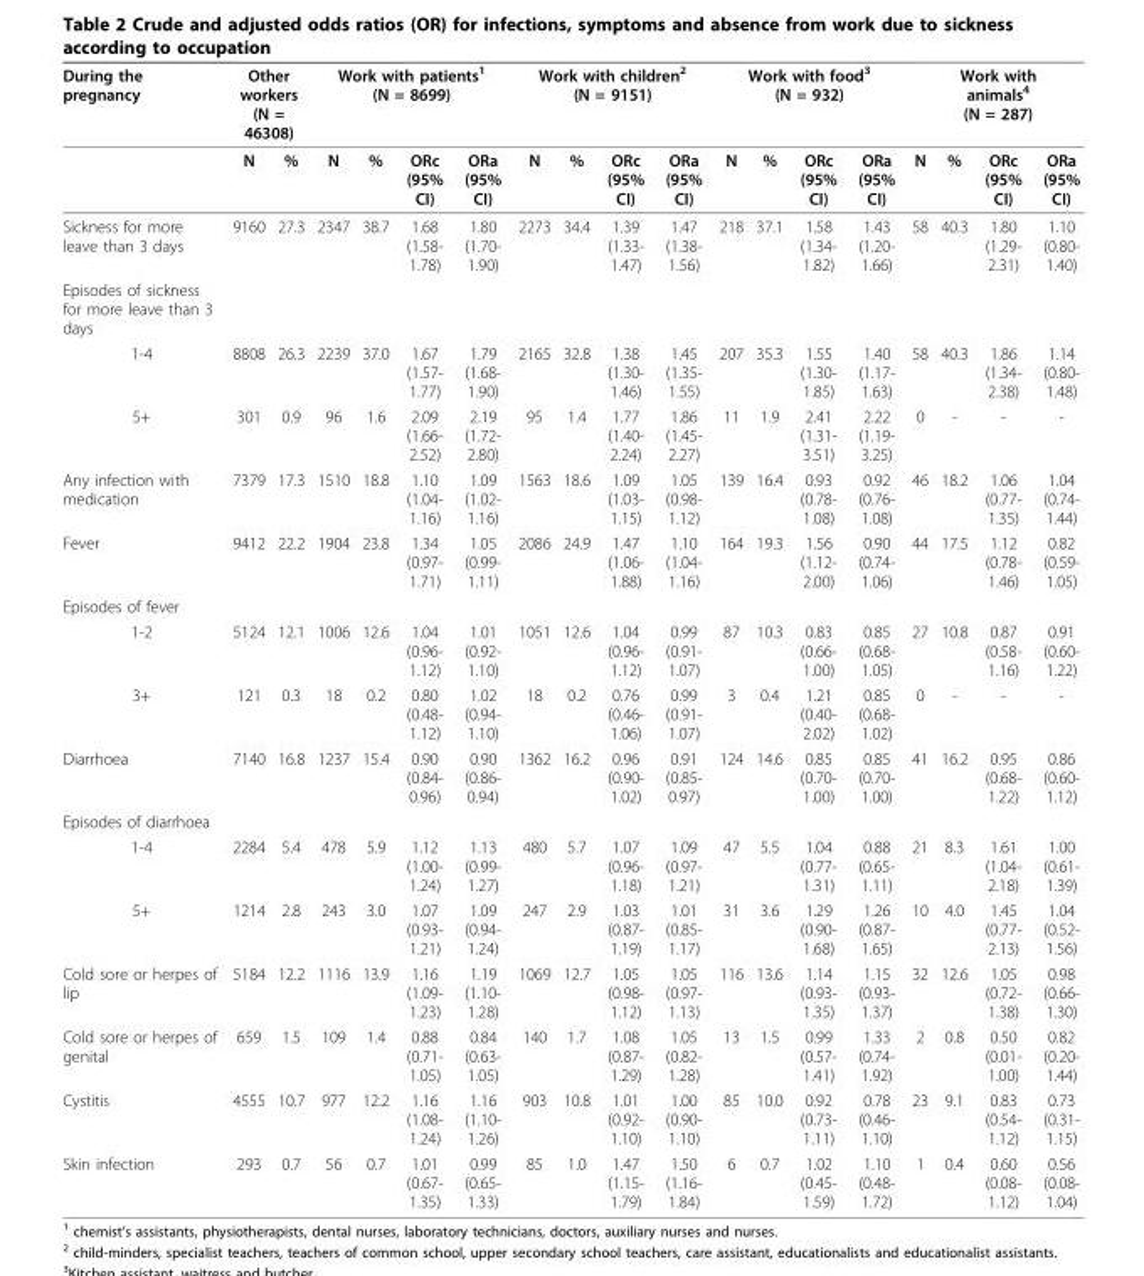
<table><thead><tr><td rowspan="2">During the pregnancy</td><td colspan="2">Other workers (N = 46308)</td><td colspan="4">Work with patients<sup>1</sup> (N = 8699)</td><td colspan="4">Work with children<sup>2</sup> (N = 9151)</td><td colspan="4">Work with food<sup>3</sup> (N = 932)</td><td colspan="4">Work with animals<sup>4</sup> (N = 287)</td></tr><tr><td>N</td><td>%</td><td>N</td><td>%</td><td>ORc (95% CI)</td><td>ORa (95% CI)</td><td>N</td><td>%</td><td>ORc (95% CI)</td><td>ORa (95% CI)</td><td>N</td><td>%</td><td>ORc (95% CI)</td><td>ORa (95% CI)</td><td>N</td><td>%</td><td>ORc (95% CI)</td><td>ORa (95% CI)</td></tr></thead><tbody><tr><td>Sickness for more leave than 3 days</td><td>9160</td><td>27.3</td><td>2347</td><td>38.7</td><td>1.68 (1.58- 1.78)</td><td>1.80 (1.70- 1.90)</td><td>2273</td><td>34.4</td><td>1.39 (1.33- 1.47)</td><td>1.47 (1.38- 1.56)</td><td>218</td><td>37.1</td><td>1.58 (1.34- 1.82)</td><td>1.43 (1.20- 1.66)</td><td>58</td><td>40.3</td><td>1.80 (1.29- 2.31)</td><td>1.10 (0.80- 1.40)</td></tr><tr><td colspan="19">Episodes of sickness for more leave than 3 days</td></tr><tr><td>1-4</td><td>8808</td><td>26.3</td><td>2239</td><td>37.0</td><td>1.67 (1.57- 1.77)</td><td>1.79 (1.68- 1.90)</td><td>2165</td><td>32.8</td><td>1.38 (1.30- 1.46)</td><td>1.45 (1.35- 1.55)</td><td>207</td><td>35.3</td><td>1.55 (1.30- 1.85)</td><td>1.40 (1.17- 1.63)</td><td>58</td><td>40.3</td><td>1.86 (1.34- 2.38)</td><td>1.14 (0.80- 1.48)</td></tr><tr><td>5+</td><td>301</td><td>0.9</td><td>96</td><td>1.6</td><td>2.09 (1.66- 2.52)</td><td>2.19 (1.72- 2.80)</td><td>95</td><td>1.4</td><td>1.77 (1.40- 2.24)</td><td>1.86 (1.45- 2.27)</td><td>11</td><td>1.9</td><td>2.41 (1.31- 3.51)</td><td>2.22 (1.19- 3.25)</td><td>0</td><td>-</td><td>-</td><td>-</td></tr><tr><td>Any infection with medication</td><td>7379</td><td>17.3</td><td>1510</td><td>18.8</td><td>1.10 (1.04- 1.16)</td><td>1.09 (1.02- 1.16)</td><td>1563</td><td>18.6</td><td>1.09 (1.03- 1.15)</td><td>1.05 (0.98- 1.12)</td><td>139</td><td>16.4</td><td>0.93 (0.78- 1.08)</td><td>0.92 (0.76- 1.08)</td><td>46</td><td>18.2</td><td>1.06 (0.77- 1.35)</td><td>1.04 (0.74- 1.44)</td></tr><tr><td>Fever</td><td>9412</td><td>22.2</td><td>1904</td><td>23.8</td><td>1.34 (0.97- 1.71)</td><td>1.05 (0.99- 1.11)</td><td>2086</td><td>24.9</td><td>1.47 (1.06- 1.88)</td><td>1.10 (1.04- 1.16)</td><td>164</td><td>19.3</td><td>1.56 (1.12- 2.00)</td><td>0.90 (0.74- 1.06)</td><td>44</td><td>17.5</td><td>1.12 (0.78- 1.46)</td><td>0.82 (0.59- 1.05)</td></tr><tr><td colspan="19">Episodes of fever</td></tr><tr><td>1-2</td><td>5124</td><td>12.1</td><td>1006</td><td>12.6</td><td>1.04 (0.96- 1.12)</td><td>1.01 (0.92- 1.10)</td><td>1051</td><td>12.6</td><td>1.04 (0.96- 1.12)</td><td>0.99 (0.91- 1.07)</td><td>87</td><td>10.3</td><td>0.83 (0.66- 1.00)</td><td>0.85 (0.68- 1.05)</td><td>27</td><td>10.8</td><td>0.87 (0.58- 1.16)</td><td>0.91 (0.60- 1.22)</td></tr><tr><td>3+</td><td>121</td><td>0.3</td><td>18</td><td>0.2</td><td>0.80 (0.48- 1.12)</td><td>1.02 (0.94- 1.10)</td><td>18</td><td>0.2</td><td>0.76 (0.46- 1.06)</td><td>0.99 (0.91- 1.07)</td><td>3</td><td>0.4</td><td>1.21 (0.40- 2.02)</td><td>0.85 (0.68- 1.02)</td><td>0</td><td>-</td><td>-</td><td>-</td></tr><tr><td>Diarrhoea</td><td>7140</td><td>16.8</td><td>1237</td><td>15.4</td><td>0.90 (0.84- 0.96)</td><td>0.90 (0.86- 0.94)</td><td>1362</td><td>16.2</td><td>0.96 (0.90- 1.02)</td><td>0.91 (0.85- 0.97)</td><td>124</td><td>14.6</td><td>0.85 (0.70- 1.00)</td><td>0.85 (0.70- 1.00)</td><td>41</td><td>16.2</td><td>0.95 (0.68- 1.22)</td><td>0.86 (0.60- 1.12)</td></tr><tr><td colspan="19">Episodes of diarrhoea</td></tr><tr><td>1-4</td><td>2284</td><td>5.4</td><td>478</td><td>5.9</td><td>1.12 (1.00- 1.24)</td><td>1.13 (0.99- 1.27)</td><td>480</td><td>5.7</td><td>1.07 (0.96- 1.18)</td><td>1.09 (0.97- 1.21)</td><td>47</td><td>5.5</td><td>1.04 (0.77- 1.31)</td><td>0.88 (0.65- 1.11)</td><td>21</td><td>8.3</td><td>1.61 (1.04- 2.18)</td><td>1.00 (0.61- 1.39)</td></tr><tr><td>5+</td><td>1214</td><td>2.8</td><td>243</td><td>3.0</td><td>1.07 (0.93- 1.21)</td><td>1.09 (0.94- 1.24)</td><td>247</td><td>2.9</td><td>1.03 (0.87- 1.19)</td><td>1.01 (0.85- 1.17)</td><td>31</td><td>3.6</td><td>1.29 (0.90- 1.68)</td><td>1.26 (0.87- 1.65)</td><td>10</td><td>4.0</td><td>1.45 (0.77- 2.13)</td><td>1.04 (0.52- 1.56)</td></tr><tr><td>Cold sore or herpes of lip</td><td>5184</td><td>12.2</td><td>1116</td><td>13.9</td><td>1.16 (1.09- 1.23)</td><td>1.19 (1.10- 1.28)</td><td>1069</td><td>12.7</td><td>1.05 (0.98- 1.12)</td><td>1.05 (0.97- 1.13)</td><td>116</td><td>13.6</td><td>1.14 (0.93- 1.35)</td><td>1.15 (0.93- 1.37)</td><td>32</td><td>12.6</td><td>1.05 (0.72- 1.38)</td><td>0.98 (0.66- 1.30)</td></tr><tr><td>Cold sore or herpes of genital</td><td>659</td><td>1.5</td><td>109</td><td>1.4</td><td>0.88 (0.71- 1.05)</td><td>0.84 (0.63- 1.05)</td><td>140</td><td>1.7</td><td>1.08 (0.87- 1.29)</td><td>1.05 (0.82- 1.28)</td><td>13</td><td>1.5</td><td>0.99 (0.57- 1.41)</td><td>1.33 (0.74- 1.92)</td><td>2</td><td>0.8</td><td>0.50 (0.01- 1.00)</td><td>0.82 (0.20- 1.44)</td></tr><tr><td>Cystitis</td><td>4555</td><td>10.7</td><td>977</td><td>12.2</td><td>1.16 (1.08- 1.24)</td><td>1.16 (1.10- 1.26)</td><td>903</td><td>10.8</td><td>1.01 (0.92- 1.10)</td><td>1.00 (0.90- 1.10)</td><td>85</td><td>10.0</td><td>0.92 (0.73- 1.11)</td><td>0.78 (0.46- 1.10)</td><td>23</td><td>9.1</td><td>0.83 (0.54- 1.12)</td><td>0.73 (0.31- 1.15)</td></tr><tr><td>Skin infection</td><td>293</td><td>0.7</td><td>56</td><td>0.7</td><td>1.01 (0.67- 1.35)</td><td>0.99 (0.65- 1.33)</td><td>85</td><td>1.0</td><td>1.47 (1.15- 1.79)</td><td>1.50 (1.16- 1.84)</td><td>6</td><td>0.7</td><td>1.02 (0.45- 1.59)</td><td>1.10 (0.48- 1.72)</td><td>1</td><td>0.4</td><td>0.60 (0.08- 1.12)</td><td>0.56 (0.08- 1.04)</td></tr></tbody></table>